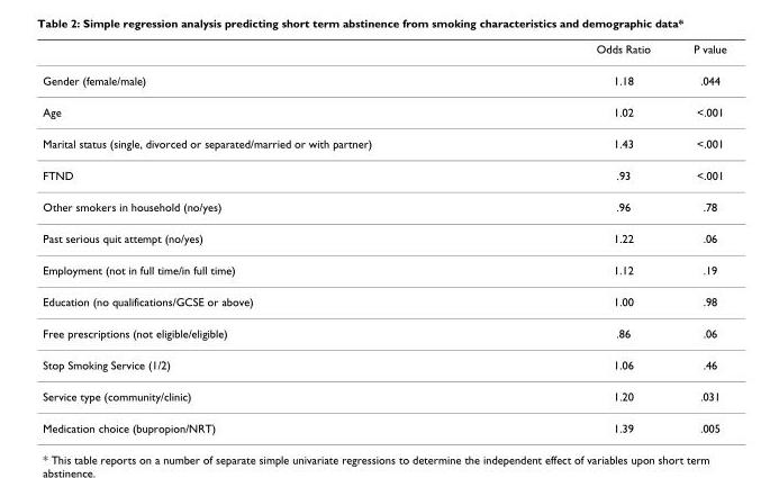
<table><thead><tr><td></td><td>Odds Ratio</td><td>P value</td></tr></thead><tbody><tr><td>Gender (female/male)</td><td>1.18</td><td>.044</td></tr><tr><td>Age</td><td>1.02</td><td>&lt;.001</td></tr><tr><td>Marital status (single, divorced or separated/married or with partner)</td><td>1.43</td><td>&lt;.001</td></tr><tr><td>FTND</td><td>.93</td><td>&lt;.001</td></tr><tr><td>Other smokers in household (no/yes)</td><td>.96</td><td>.78</td></tr><tr><td>Past serious quit attempt (no/yes)</td><td>1.22</td><td>.06</td></tr><tr><td>Employment (not in full time/in full time)</td><td>1.12</td><td>.19</td></tr><tr><td>Education (no qualifications/GCSE or above)</td><td>1.00</td><td>.98</td></tr><tr><td>Free prescriptions (not eligible/eligible)</td><td>.86</td><td>.06</td></tr><tr><td>Stop Smoking Service (1/2)</td><td>1.06</td><td>.46</td></tr><tr><td>Service type (community/clinic)</td><td>1.20</td><td>.031</td></tr><tr><td>Medication choice (bupropion/NRT)</td><td>1.39</td><td>.005</td></tr></tbody></table>